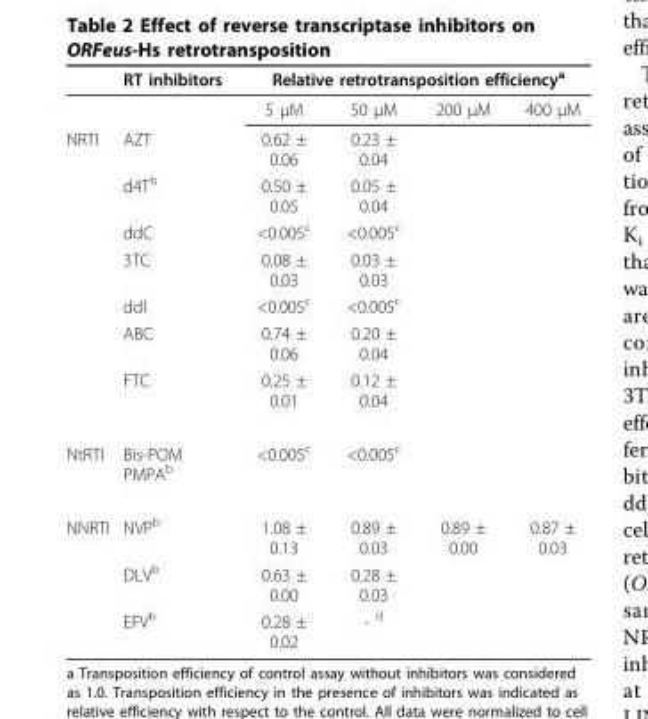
<table><thead><tr><td rowspan="2"></td><td rowspan="2">RT inhibitors</td><td colspan="4">Relative retrotransposition efficiency<sup>a</sup></td></tr><tr><td>5 μM</td><td>50 μM</td><td>200 μM</td><td>400 μM</td></tr></thead><tbody><tr><td rowspan="7">NRTI</td><td>AZT</td><td>0.62 ± 0.06</td><td>0.23 ± 0.04</td><td></td><td></td></tr><tr><td>d4T<sup>b</sup></td><td>0.50 ± 0.05</td><td>0.05 ± 0.04</td><td></td><td></td></tr><tr><td>ddC</td><td>&lt;0.005<sup>c</sup></td><td>&lt;0.005<sup>c</sup></td><td></td><td></td></tr><tr><td>3TC</td><td>0.08 ± 0.03</td><td>0.03 ± 0.03</td><td></td><td></td></tr><tr><td>ddI</td><td>&lt;0.005<sup>c</sup></td><td>&lt;0.005<sup>c</sup></td><td></td><td></td></tr><tr><td>ABC</td><td>0.74 ± 0.06</td><td>0.20 ± 0.04</td><td></td><td></td></tr><tr><td>FTC</td><td>0.25 ± 0.01</td><td>0.12 ± 0.04</td><td></td><td></td></tr><tr><td>NtRTI</td><td>Bis-POM PMPA<sup>b</sup></td><td>&lt;0.005<sup>c</sup></td><td>&lt;0.005<sup>c</sup></td><td></td><td></td></tr><tr><td rowspan="3">NNRTI</td><td>NVP<sup>b</sup></td><td>1.08 ± 0.13</td><td>0.89 ± 0.03</td><td>0.89 ± 0.00</td><td>0.87 ± 0.03</td></tr><tr><td>DLV<sup>b</sup></td><td>0.63 ± 0.00</td><td>0.28 ± 0.03</td><td></td><td></td></tr><tr><td>EFV<sup>b</sup></td><td>0.28 ± 0.02</td><td>- <sup>d</sup></td><td></td><td></td></tr></tbody></table>